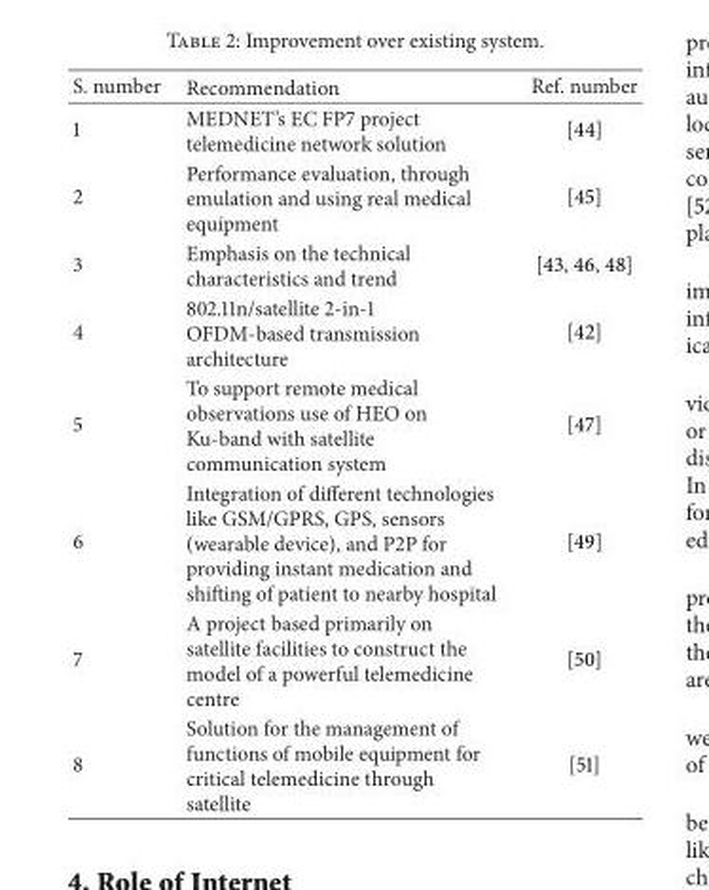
<table><thead><tr><td>S. number</td><td>Recommendation</td><td>Ref. number</td></tr></thead><tbody><tr><td>1</td><td>MEDNET’s EC FP7 project telemedicine network solution</td><td>[44]</td></tr><tr><td>2</td><td>Performance evaluation, through emulation and using real medical equipment</td><td>[45]</td></tr><tr><td>3</td><td>Emphasis on the technical characteristics and trend</td><td>[43, 46, 48]</td></tr><tr><td>4</td><td>802.11n/satellite 2-in-1 OFDM-based transmission architecture</td><td>[42]</td></tr><tr><td>5</td><td>To support remote medical observations use of HEO on Ku-band with satellite communication system</td><td>[47]</td></tr><tr><td>6</td><td>Integration of different technologies like GSM/GPRS, GPS, sensors (wearable device), and P2P for providing instant medication and shifting of patient to nearby hospital</td><td>[49]</td></tr><tr><td>7</td><td>A project based primarily on satellite facilities to construct the model of a powerful telemedicine centre</td><td>[50]</td></tr><tr><td>8</td><td>Solution for the management of functions of mobile equipment for critical telemedicine through satellite</td><td>[51]</td></tr></tbody></table>